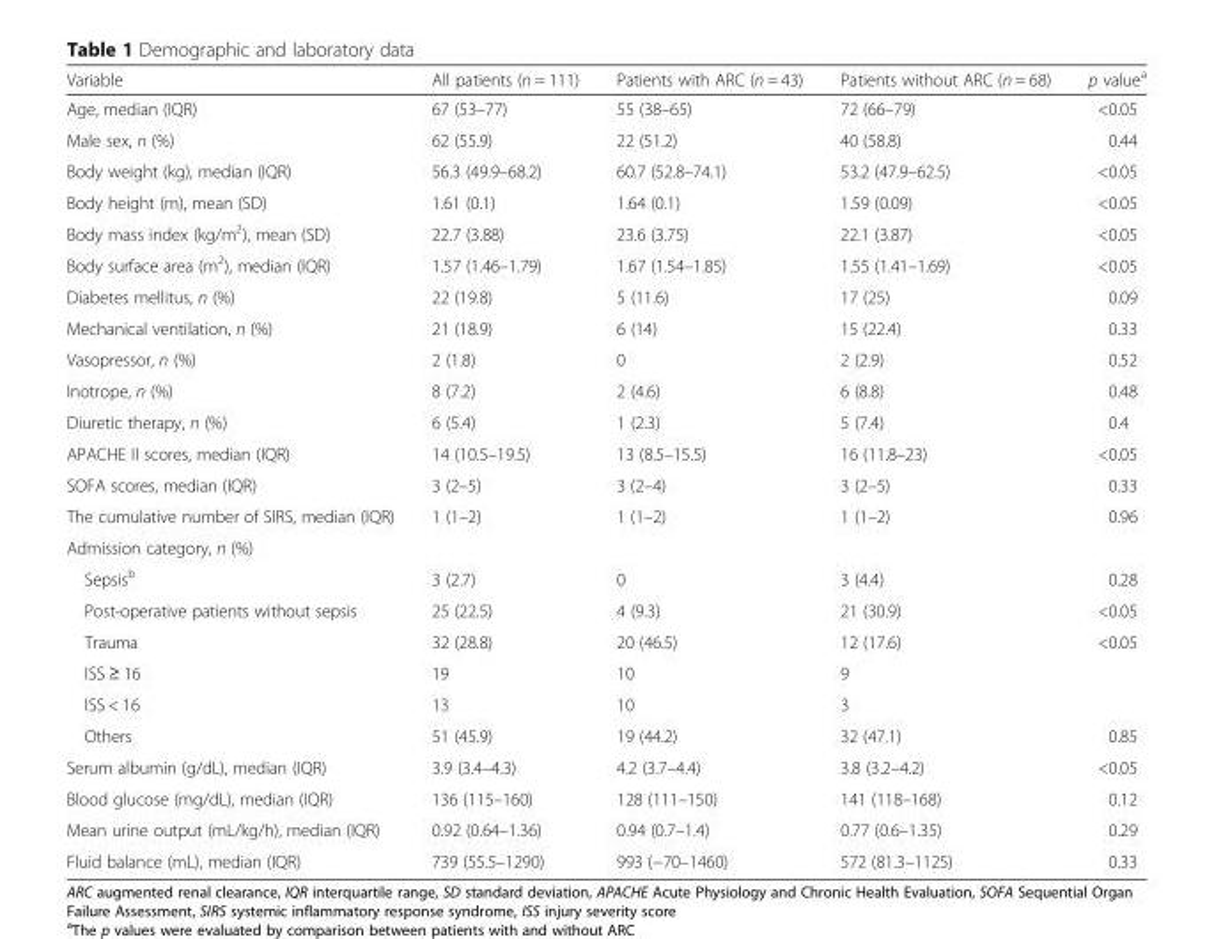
<table><thead><tr><td>Variable</td><td>All patients (n = 111)</td><td>Patients with ARC (n = 43)</td><td>Patients without ARC (n = 68)</td><td>p value<sup>a</sup></td></tr></thead><tbody><tr><td>Age, median (IQR)</td><td>67 (53–77)</td><td>55 (38–65)</td><td>72 (66–79)</td><td>&lt;0.05</td></tr><tr><td>Male sex, n (%)</td><td>62 (55.9)</td><td>22 (51.2)</td><td>40 (58.8)</td><td>0.44</td></tr><tr><td>Body weight (kg), median (IQR)</td><td>56.3 (49.9–68.2)</td><td>60.7 (52.8–74.1)</td><td>53.2 (47.9–62.5)</td><td>&lt;0.05</td></tr><tr><td>Body height (m), mean (SD)</td><td>1.61 (0.1)</td><td>1.64 (0.1)</td><td>1.59 (0.09)</td><td>&lt;0.05</td></tr><tr><td>Body mass index (kg/m<sup>2</sup>), mean (SD)</td><td>22.7 (3.88)</td><td>23.6 (3.75)</td><td>22.1 (3.87)</td><td>&lt;0.05</td></tr><tr><td>Body surface area (m<sup>2</sup>), median (IQR)</td><td>1.57 (1.46–1.79)</td><td>1.67 (1.54–1.85)</td><td>1.55 (1.41–1.69)</td><td>&lt;0.05</td></tr><tr><td>Diabetes mellitus, n (%)</td><td>22 (19.8)</td><td>5 (11.6)</td><td>17 (25)</td><td>0.09</td></tr><tr><td>Mechanical ventilation, n (%)</td><td>21 (18.9)</td><td>6 (14)</td><td>15 (22.4)</td><td>0.33</td></tr><tr><td>Vasopressor, n (%)</td><td>2 (1.8)</td><td>0</td><td>2 (2.9)</td><td>0.52</td></tr><tr><td>Inotrope, n (%)</td><td>8 (7.2)</td><td>2 (4.6)</td><td>6 (8.8)</td><td>0.48</td></tr><tr><td>Diuretic therapy, n (%)</td><td>6 (5.4)</td><td>1 (2.3)</td><td>5 (7.4)</td><td>0.4</td></tr><tr><td>APACHE II scores, median (IQR)</td><td>14 (10.5–19.5)</td><td>13 (8.5–15.5)</td><td>16 (11.8–23)</td><td>&lt;0.05</td></tr><tr><td>SOFA scores, median (IQR)</td><td>3 (2–5)</td><td>3 (2–4)</td><td>3 (2–5)</td><td>0.33</td></tr><tr><td>The cumulative number of SIRS, median (IQR)</td><td>1 (1–2)</td><td>1 (1–2)</td><td>1 (1–2)</td><td>0.96</td></tr><tr><td colspan="5">Admission category, n (%)</td></tr><tr><td>Sepsis<sup>b</sup></td><td>3 (2.7)</td><td>0</td><td>3 (4.4)</td><td>0.28</td></tr><tr><td>Post-operative patients without sepsis</td><td>25 (22.5)</td><td>4 (9.3)</td><td>21 (30.9)</td><td>&lt;0.05</td></tr><tr><td>Trauma</td><td>32 (28.8)</td><td>20 (46.5)</td><td>12 (17.6)</td><td>&lt;0.05</td></tr><tr><td>ISS ≥ 16</td><td>19</td><td>10</td><td>9</td><td></td></tr><tr><td>ISS &lt; 16</td><td>13</td><td>10</td><td>3</td><td></td></tr><tr><td>Others</td><td>51 (45.9)</td><td>19 (44.2)</td><td>32 (47.1)</td><td>0.85</td></tr><tr><td>Serum albumin (g/dL), median (IQR)</td><td>3.9 (3.4–4.3)</td><td>4.2 (3.7–4.4)</td><td>3.8 (3.2–4.2)</td><td>&lt;0.05</td></tr><tr><td>Blood glucose (mg/dL), median (IQR)</td><td>136 (115–160)</td><td>128 (111–150)</td><td>141 (118–168)</td><td>0.12</td></tr><tr><td>Mean urine output (mL/kg/h), median (IQR)</td><td>0.92 (0.64–1.36)</td><td>0.94 (0.7–1.4)</td><td>0.77 (0.6–1.35)</td><td>0.29</td></tr><tr><td>Fluid balance (mL), median (IQR)</td><td>739 (55.5–1290)</td><td>993 (−70–1460)</td><td>572 (81.3–1125)</td><td>0.33</td></tr></tbody></table>